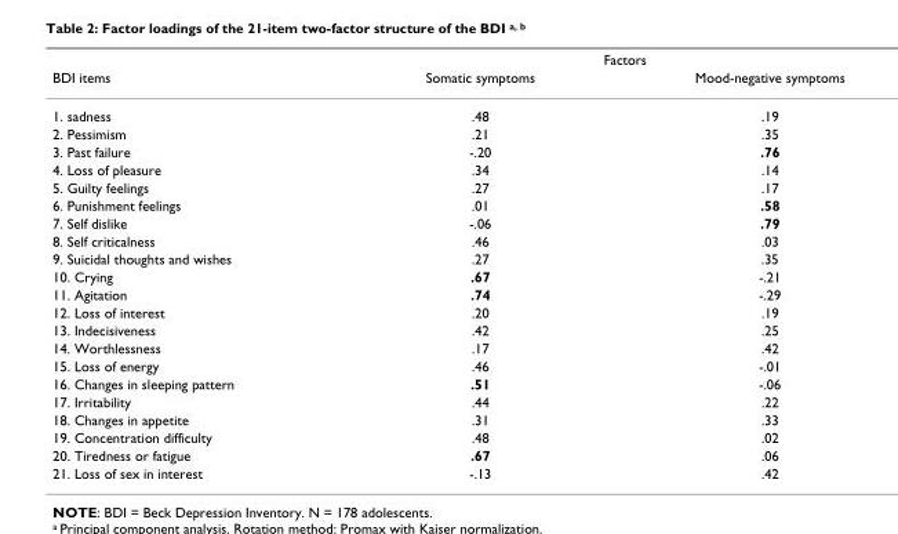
<table><thead><tr><td rowspan="2">BDI items</td><td colspan="2">Factors</td></tr><tr><td>Somatic symptoms</td><td>Mood-negative symptoms</td></tr></thead><tbody><tr><td>1. sadness</td><td>.48</td><td>.19</td></tr><tr><td>2. Pessimism</td><td>.21</td><td>.35</td></tr><tr><td>3. Past failure</td><td>-.20</td><td>.76</td></tr><tr><td>4. Loss of pleasure</td><td>.34</td><td>.14</td></tr><tr><td>5. Guilty feelings</td><td>.27</td><td>.17</td></tr><tr><td>6. Punishment feelings</td><td>.01</td><td>.58</td></tr><tr><td>7. Self dislike</td><td>-.06</td><td>.79</td></tr><tr><td>8. Self criticalness</td><td>.46</td><td>.03</td></tr><tr><td>9. Suicidal thoughts and wishes</td><td>.27</td><td>.35</td></tr><tr><td>10. Crying</td><td>.67</td><td>-.21</td></tr><tr><td>11. Agitation</td><td>.74</td><td>-.29</td></tr><tr><td>12. Loss of interest</td><td>.20</td><td>.19</td></tr><tr><td>13. Indecisiveness</td><td>.42</td><td>.25</td></tr><tr><td>14. Worthlessness</td><td>.17</td><td>.42</td></tr><tr><td>15. Loss of energy</td><td>.46</td><td>-.01</td></tr><tr><td>16. Changes in sleeping pattern</td><td>.51</td><td>-.06</td></tr><tr><td>17. Irritability</td><td>.44</td><td>.22</td></tr><tr><td>18. Changes in appetite</td><td>.31</td><td>.33</td></tr><tr><td>19. Concentration difficulty</td><td>.48</td><td>.02</td></tr><tr><td>20. Tiredness or fatigue</td><td>.67</td><td>.06</td></tr><tr><td>21. Loss of sex in interest</td><td>-.13</td><td>.42</td></tr></tbody></table>